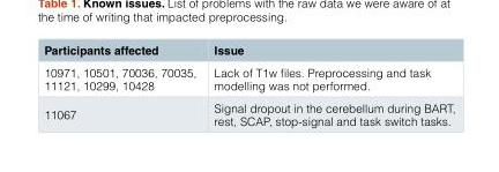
<table><thead><tr><td>Participants affected</td><td>Issue</td></tr></thead><tbody><tr><td>10971, 10501, 70036, 70035, 11121, 10299, 10428</td><td>Lack of T1w files. Preprocessing and task modelling was not performed.</td></tr><tr><td>11067</td><td>Signal dropout in the cerebellum during BART, rest, SCAP, stop-signal and task switch tasks.</td></tr></tbody></table>